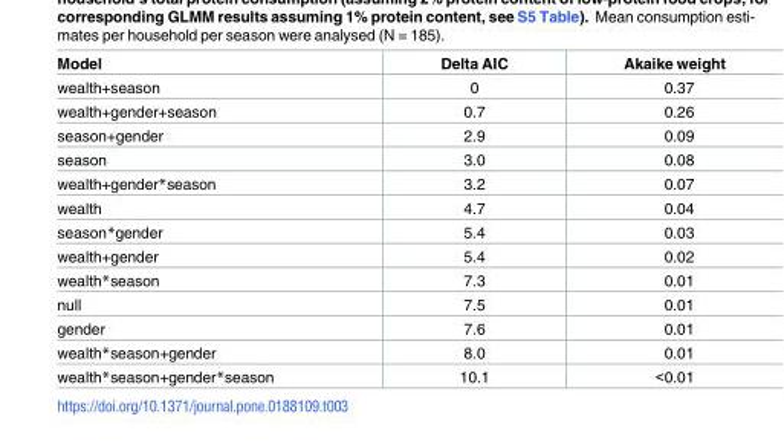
<table><thead><tr><td>Model</td><td>Delta AIC</td><td>Akaike weight</td></tr></thead><tbody><tr><td>wealth+season</td><td>0</td><td>0.37</td></tr><tr><td>wealth+gender+season</td><td>0.7</td><td>0.26</td></tr><tr><td>season+gender</td><td>2.9</td><td>0.09</td></tr><tr><td>season</td><td>3.0</td><td>0.08</td></tr><tr><td>wealth+gender*season</td><td>3.2</td><td>0.07</td></tr><tr><td>wealth</td><td>4.7</td><td>0.04</td></tr><tr><td>season*gender</td><td>5.4</td><td>0.03</td></tr><tr><td>wealth+gender</td><td>5.4</td><td>0.02</td></tr><tr><td>wealth*season</td><td>7.3</td><td>0.01</td></tr><tr><td>null</td><td>7.5</td><td>0.01</td></tr><tr><td>gender</td><td>7.6</td><td>0.01</td></tr><tr><td>wealth*season+gender</td><td>8.0</td><td>0.01</td></tr><tr><td>wealth*season+gender*season</td><td>10.1</td><td>&lt;0.01</td></tr></tbody></table>